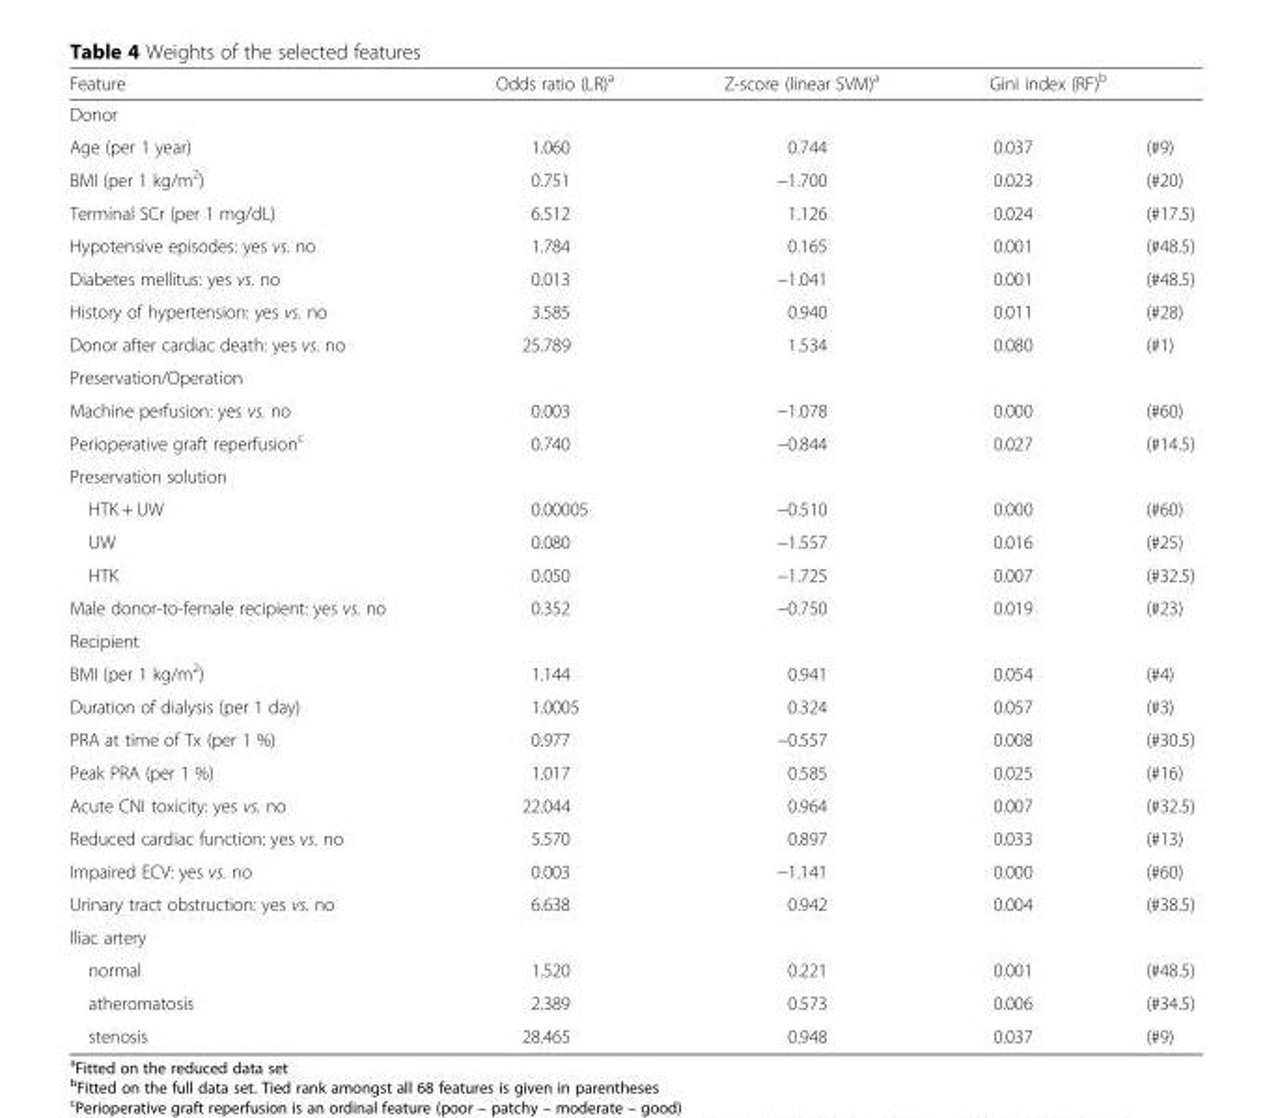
<table><thead><tr><td>Feature</td><td>Odds ratio (LR)<sup>a</sup></td><td>Z-score (linear SVM)<sup>a</sup></td><td colspan="2">Gini index (RF)<sup>b</sup></td></tr><tr><td colspan="5">Donor</td></tr><tr><td>Age (per 1 year)</td><td>1.060</td><td>0.744</td><td>0.037</td><td>(#9)</td></tr></thead><tbody><tr><td>BMI (per 1 kg/m<sup>2</sup>)</td><td>0.751</td><td>−1.700</td><td>0.023</td><td>(#20)</td></tr><tr><td>Terminal SCr (per 1 mg/dL)</td><td>6.512</td><td>1.126</td><td>0.024</td><td>(#17.5)</td></tr><tr><td>Hypotensive episodes: yes vs. no</td><td>1.784</td><td>0.165</td><td>0.001</td><td>(#48.5)</td></tr><tr><td>Diabetes mellitus: yes vs. no</td><td>0.013</td><td>−1.041</td><td>0.001</td><td>(#48.5)</td></tr><tr><td>History of hypertension: yes vs. no</td><td>3.585</td><td>0.940</td><td>0.011</td><td>(#28)</td></tr><tr><td>Donor after cardiac death: yes vs. no</td><td>25.789</td><td>1.534</td><td>0.080</td><td>(#1)</td></tr><tr><td colspan="5">Preservation/Operation</td></tr><tr><td>Machine perfusion: yes vs. no</td><td>0.003</td><td>−1.078</td><td>0.000</td><td>(#60)</td></tr><tr><td>Perioperative graft reperfusion<sup>c</sup></td><td>0.740</td><td>−0.844</td><td>0.027</td><td>(#14.5)</td></tr><tr><td colspan="5">Preservation solution</td></tr><tr><td>HTK + UW</td><td>0.00005</td><td>−0.510</td><td>0.000</td><td>(#60)</td></tr><tr><td>UW</td><td>0.080</td><td>−1.557</td><td>0.016</td><td>(#25)</td></tr><tr><td>HTK</td><td>0.050</td><td>−1.725</td><td>0.007</td><td>(#32.5)</td></tr><tr><td>Male donor-to-female recipient: yes vs. no</td><td>0.352</td><td>−0.750</td><td>0.019</td><td>(#23)</td></tr><tr><td colspan="5">Recipient</td></tr><tr><td>BMI (per 1 kg/m<sup>2</sup>)</td><td>1.144</td><td>0.941</td><td>0.054</td><td>(#4)</td></tr><tr><td>Duration of dialysis (per 1 day)</td><td>1.0005</td><td>0.324</td><td>0.057</td><td>(#3)</td></tr><tr><td>PRA at time of Tx (per 1 %)</td><td>0.977</td><td>−0.557</td><td>0.008</td><td>(#30.5)</td></tr><tr><td>Peak PRA (per 1 %)</td><td>1.017</td><td>0.585</td><td>0.025</td><td>(#16)</td></tr><tr><td>Acute CNI toxicity: yes vs. no</td><td>22.044</td><td>0.964</td><td>0.007</td><td>(#32.5)</td></tr><tr><td>Reduced cardiac function: yes vs. no</td><td>5.570</td><td>0.897</td><td>0.033</td><td>(#13)</td></tr><tr><td>Impaired ECV: yes vs. no</td><td>0.003</td><td>−1.141</td><td>0.000</td><td>(#60)</td></tr><tr><td>Urinary tract obstruction: yes vs. no</td><td>6.638</td><td>0.942</td><td>0.004</td><td>(#38.5)</td></tr><tr><td colspan="5">Iliac artery</td></tr><tr><td>normal</td><td>1.520</td><td>0.221</td><td>0.001</td><td>(#48.5)</td></tr><tr><td>atheromatosis</td><td>2.389</td><td>0.573</td><td>0.006</td><td>(#34.5)</td></tr><tr><td>stenosis</td><td>28.465</td><td>0.948</td><td>0.037</td><td>(#9)</td></tr></tbody></table>